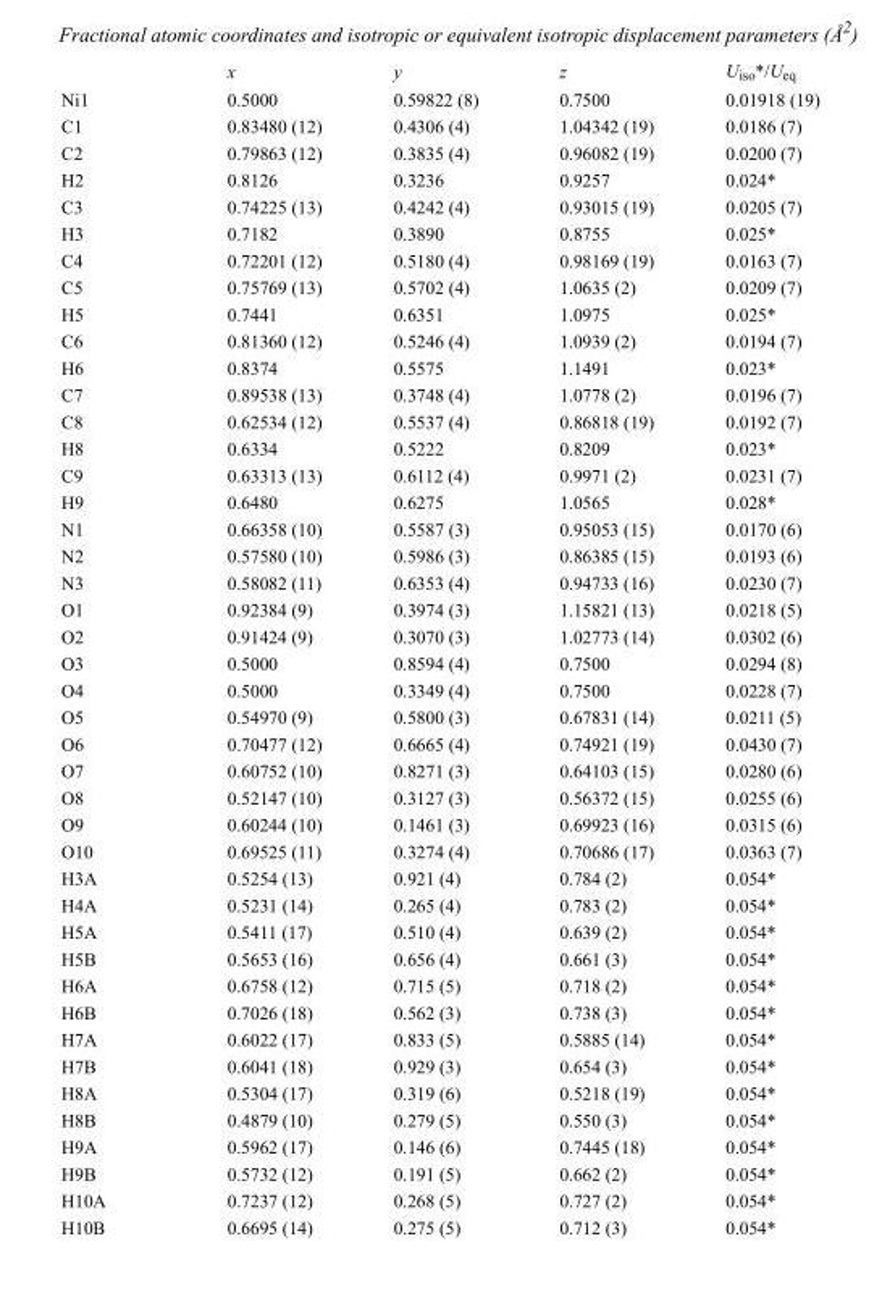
<table><thead><tr><td></td><td>x</td><td>y</td><td>z</td><td>U<sub>iso</sub>*/U<sub>eq</sub></td></tr></thead><tbody><tr><td>Ni1</td><td>0.5000</td><td>0.59822 (8)</td><td>0.7500</td><td>0.01918 (19)</td></tr><tr><td>C1</td><td>0.83480 (12)</td><td>0.4306 (4)</td><td>1.04342 (19)</td><td>0.0186 (7)</td></tr><tr><td>C2</td><td>0.79863 (12)</td><td>0.3835 (4)</td><td>0.96082 (19)</td><td>0.0200 (7)</td></tr><tr><td>H2</td><td>0.8126</td><td>0.3236</td><td>0.9257</td><td>0.024*</td></tr><tr><td>C3</td><td>0.74225 (13)</td><td>0.4242 (4)</td><td>0.93015 (19)</td><td>0.0205 (7)</td></tr><tr><td>H3</td><td>0.7182</td><td>0.3890</td><td>0.8755</td><td>0.025*</td></tr><tr><td>C4</td><td>0.72201 (12)</td><td>0.5180 (4)</td><td>0.98169 (19)</td><td>0.0163 (7)</td></tr><tr><td>C5</td><td>0.75769 (13)</td><td>0.5702 (4)</td><td>1.0635 (2)</td><td>0.0209 (7)</td></tr><tr><td>H5</td><td>0.7441</td><td>0.6351</td><td>1.0975</td><td>0.025*</td></tr><tr><td>C6</td><td>0.81360 (12)</td><td>0.5246 (4)</td><td>1.0939 (2)</td><td>0.0194 (7)</td></tr><tr><td>H6</td><td>0.8374</td><td>0.5575</td><td>1.1491</td><td>0.023*</td></tr><tr><td>C7</td><td>0.89538 (13)</td><td>0.3748 (4)</td><td>1.0778 (2)</td><td>0.0196 (7)</td></tr><tr><td>C8</td><td>0.62534 (12)</td><td>0.5537 (4)</td><td>0.86818 (19)</td><td>0.0192 (7)</td></tr><tr><td>H8</td><td>0.6334</td><td>0.5222</td><td>0.8209</td><td>0.023*</td></tr><tr><td>C9</td><td>0.63313 (13)</td><td>0.6112 (4)</td><td>0.9971 (2)</td><td>0.0231 (7)</td></tr><tr><td>H9</td><td>0.6480</td><td>0.6275</td><td>1.0565</td><td>0.028*</td></tr><tr><td>N1</td><td>0.66358 (10)</td><td>0.5587 (3)</td><td>0.95053 (15)</td><td>0.0170 (6)</td></tr><tr><td>N2</td><td>0.57580 (10)</td><td>0.5986 (3)</td><td>0.86385 (15)</td><td>0.0193 (6)</td></tr><tr><td>N3</td><td>0.58082 (11)</td><td>0.6353 (4)</td><td>0.94733 (16)</td><td>0.0230 (7)</td></tr><tr><td>O1</td><td>0.92384 (9)</td><td>0.3974 (3)</td><td>1.15821 (13)</td><td>0.0218 (5)</td></tr><tr><td>O2</td><td>0.91424 (9)</td><td>0.3070 (3)</td><td>1.02773 (14)</td><td>0.0302 (6)</td></tr><tr><td>O3</td><td>0.5000</td><td>0.8594 (4)</td><td>0.7500</td><td>0.0294 (8)</td></tr><tr><td>O4</td><td>0.5000</td><td>0.3349 (4)</td><td>0.7500</td><td>0.0228 (7)</td></tr><tr><td>O5</td><td>0.54970 (9)</td><td>0.5800 (3)</td><td>0.67831 (14)</td><td>0.0211 (5)</td></tr><tr><td>O6</td><td>0.70477 (12)</td><td>0.6665 (4)</td><td>0.74921 (19)</td><td>0.0430 (7)</td></tr><tr><td>O7</td><td>0.60752 (10)</td><td>0.8271 (3)</td><td>0.64103 (15)</td><td>0.0280 (6)</td></tr><tr><td>O8</td><td>0.52147 (10)</td><td>0.3127 (3)</td><td>0.56372 (15)</td><td>0.0255 (6)</td></tr><tr><td>O9</td><td>0.60244 (10)</td><td>0.1461 (3)</td><td>0.69923 (16)</td><td>0.0315 (6)</td></tr><tr><td>O10</td><td>0.69525 (11)</td><td>0.3274 (4)</td><td>0.70686 (17)</td><td>0.0363 (7)</td></tr><tr><td>H3A</td><td>0.5254 (13)</td><td>0.921 (4)</td><td>0.784 (2)</td><td>0.054*</td></tr><tr><td>H4A</td><td>0.5231 (14)</td><td>0.265 (4)</td><td>0.783 (2)</td><td>0.054*</td></tr><tr><td>H5A</td><td>0.5411 (17)</td><td>0.510 (4)</td><td>0.639 (2)</td><td>0.054*</td></tr><tr><td>H5B</td><td>0.5653 (16)</td><td>0.656 (4)</td><td>0.661 (3)</td><td>0.054*</td></tr><tr><td>H6A</td><td>0.6758 (12)</td><td>0.715 (5)</td><td>0.718 (2)</td><td>0.054*</td></tr><tr><td>H6B</td><td>0.7026 (18)</td><td>0.562 (3)</td><td>0.738 (3)</td><td>0.054*</td></tr><tr><td>H7A</td><td>0.6022 (17)</td><td>0.833 (5)</td><td>0.5885 (14)</td><td>0.054*</td></tr><tr><td>H7B</td><td>0.6041 (18)</td><td>0.929 (3)</td><td>0.654 (3)</td><td>0.054*</td></tr><tr><td>H8A</td><td>0.5304 (17)</td><td>0.319 (6)</td><td>0.5218 (19)</td><td>0.054*</td></tr><tr><td>H8B</td><td>0.4879 (10)</td><td>0.279 (5)</td><td>0.550 (3)</td><td>0.054*</td></tr><tr><td>H9A</td><td>0.5962 (17)</td><td>0.146 (6)</td><td>0.7445 (18)</td><td>0.054*</td></tr><tr><td>H9B</td><td>0.5732 (12)</td><td>0.191 (5)</td><td>0.662 (2)</td><td>0.054*</td></tr><tr><td>H10A</td><td>0.7237 (12)</td><td>0.268 (5)</td><td>0.727 (2)</td><td>0.054*</td></tr><tr><td>H10B</td><td>0.6695 (14)</td><td>0.275 (5)</td><td>0.712 (3)</td><td>0.054*</td></tr></tbody></table>